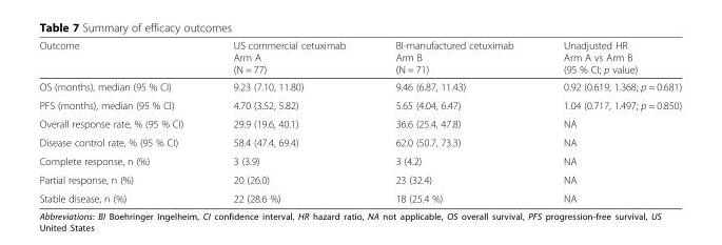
<table><thead><tr><td>Outcome</td><td>US commercial cetuximab Arm A (N = 77)</td><td>BI-manufactured cetuximab Arm B (N = 71)</td><td>Unadjusted HR Arm A vs Arm B (95 % CI; p value)</td></tr></thead><tbody><tr><td>OS (months), median (95 % CI)</td><td>9.23 (7.10, 11.80)</td><td>9.46 (6.87, 11.43)</td><td>0.92 (0.619, 1.368; p = 0.681)</td></tr><tr><td>PFS (months), median (95 % CI)</td><td>4.70 (3.52, 5.82)</td><td>5.65 (4.04, 6.47)</td><td>1.04 (0.717, 1.497; p = 0.850)</td></tr><tr><td>Overall response rate, % (95 % CI)</td><td>29.9 (19.6, 40.1)</td><td>36.6 (25.4, 47.8)</td><td>NA</td></tr><tr><td>Disease control rate, % (95 % CI)</td><td>58.4 (47.4, 69.4)</td><td>62.0 (50.7, 73.3)</td><td>NA</td></tr><tr><td>Complete response, n (%)</td><td>3 (3.9)</td><td>3 (4.2)</td><td>NA</td></tr><tr><td>Partial response, n (%)</td><td>20 (26.0)</td><td>23 (32.4)</td><td>NA</td></tr><tr><td>Stable disease, n (%)</td><td>22 (28.6 %)</td><td>18 (25.4 %)</td><td>NA</td></tr></tbody></table>